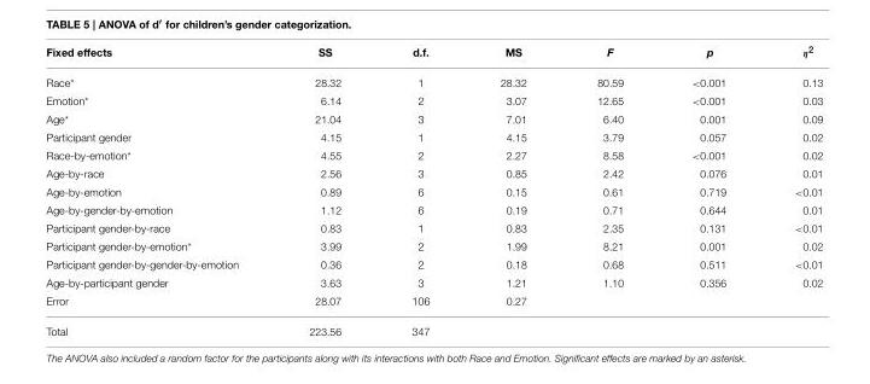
<table><thead><tr><td>Fixed effects</td><td>SS</td><td>d.f.</td><td>MS</td><td>F</td><td>p</td><td>η<sup>2</sup></td></tr></thead><tbody><tr><td>Race*</td><td>28.32</td><td>1</td><td>28.32</td><td>80.59</td><td>&lt;0.001</td><td>0.13</td></tr><tr><td>Emotion*</td><td>6.14</td><td>2</td><td>3.07</td><td>12.65</td><td>&lt;0.001</td><td>0.03</td></tr><tr><td>Age*</td><td>21.04</td><td>3</td><td>7.01</td><td>6.40</td><td>0.001</td><td>0.09</td></tr><tr><td>Participant gender</td><td>4.15</td><td>1</td><td>4.15</td><td>3.79</td><td>0.057</td><td>0.02</td></tr><tr><td>Race-by-emotion*</td><td>4.55</td><td>2</td><td>2.27</td><td>8.58</td><td>&lt;0.001</td><td>0.02</td></tr><tr><td>Age-by-race</td><td>2.56</td><td>3</td><td>0.85</td><td>2.42</td><td>0.076</td><td>0.01</td></tr><tr><td>Age-by-emotion</td><td>0.89</td><td>6</td><td>0.15</td><td>0.61</td><td>0.719</td><td>&lt;0.01</td></tr><tr><td>Age-by-gender-by-emotion</td><td>1.12</td><td>6</td><td>0.19</td><td>0.71</td><td>0.644</td><td>0.01</td></tr><tr><td>Participant gender-by-race</td><td>0.83</td><td>1</td><td>0.83</td><td>2.35</td><td>0.131</td><td>&lt;0.01</td></tr><tr><td>Participant gender-by-emotion*</td><td>3.99</td><td>2</td><td>1.99</td><td>8.21</td><td>0.001</td><td>0.02</td></tr><tr><td>Participant gender-by-gender-by-emotion</td><td>0.36</td><td>2</td><td>0.18</td><td>0.68</td><td>0.511</td><td>&lt;0.01</td></tr><tr><td>Age-by-participant gender</td><td>3.63</td><td>3</td><td>1.21</td><td>1.10</td><td>0.356</td><td>0.02</td></tr><tr><td>Error</td><td>28.07</td><td>106</td><td>0.27</td><td></td><td></td><td></td></tr><tr><td>Total</td><td>223.56</td><td>347</td><td></td><td></td><td></td><td></td></tr></tbody></table>